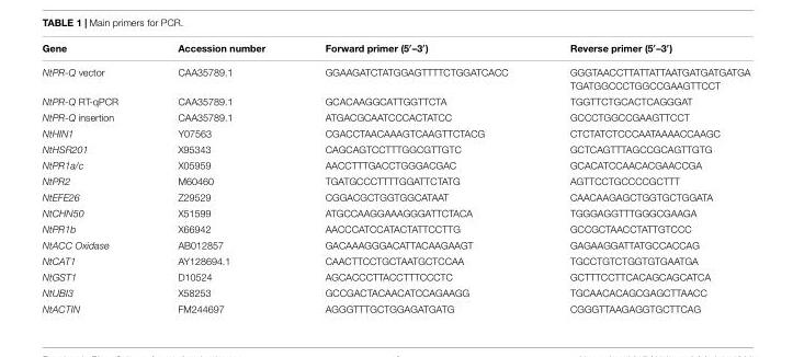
<table><thead><tr><td>Gene</td><td>Accession number</td><td>Forward primer (5′–3′)</td><td>Reverse primer (5′–3′)</td></tr></thead><tbody><tr><td>NtPR-Q vector</td><td>CAA35789.1</td><td>GGAAGATCTATGGAGTTTTCTGGATCACC</td><td>GGGTAACCTTATTATTAATGATGATGATGA TGATGGCCCTGGCCGAAGTTCCT</td></tr><tr><td>NtPR-Q RT-qPCR</td><td>CAA35789.1</td><td>GCACAAGGCATTGGTTCTA</td><td>TGGTTCTGCACTCAGGGAT</td></tr><tr><td>NtPR-Q insertion</td><td>CAA35789.1</td><td>ATGACGCAATCCCACTATCC</td><td>GCCCTGGCCGAAGTTCCT</td></tr><tr><td>NtHIN1</td><td>Y07563</td><td>CGACCTAACAAAGTCAAGTTCTACG</td><td>CTCTATCTCCCAATAAAACCAAGC</td></tr><tr><td>NtHSR201</td><td>X95343</td><td>CAGCAGTCCTTTGGCGTTGTC</td><td>GCTCAGTTTAGCCGCAGTTGTG</td></tr><tr><td>NtPR1a/c</td><td>X05959</td><td>AACCTTTGACCTGGGACGAC</td><td>GCACATCCAACACGAACCGA</td></tr><tr><td>NtPR2</td><td>M60460</td><td>TGATGCCCTTTTGGATTCTATG</td><td>AGTTCCTGCCCCGCTTT</td></tr><tr><td>NtEFE26</td><td>Z29529</td><td>CGGACGCTGGTGGCATAAT</td><td>CAACAAGAGCTGGTGCTGGATA</td></tr><tr><td>NtCHN50</td><td>X51599</td><td>ATGCCAAGGAAAGGGATTCTACA</td><td>TGGGAGGTTTGGGCGAAGA</td></tr><tr><td>NtPR1b</td><td>X66942</td><td>AACCCATCCATACTATTCCTTG</td><td>GCCGCTAACCTATTGTCCC</td></tr><tr><td>NtACC Oxidase</td><td>AB012857</td><td>GACAAAGGGACATTACAAGAAGT</td><td>GAGAAGGATTATGCCACCAG</td></tr><tr><td>NtCAT1</td><td>AY128694.1</td><td>CAACTTCCTGCTAATGCTCCAA</td><td>TGCCTGTCTGGTGTGAATGA</td></tr><tr><td>NtGST1</td><td>D10524</td><td>AGCACCCTTACCTTTCCCTC</td><td>GCTTTCCTTCACAGCAGCATCA</td></tr><tr><td>NtUBI3</td><td>X58253</td><td>GCCGACTACAACATCCAGAAGG</td><td>TGCAACACAGCGAGCTTAACC</td></tr><tr><td>NtACTIN</td><td>FM244697</td><td>AGGGTTTGCTGGAGATGATG</td><td>CGGGTTAAGAGGTGCTTCAG</td></tr></tbody></table>